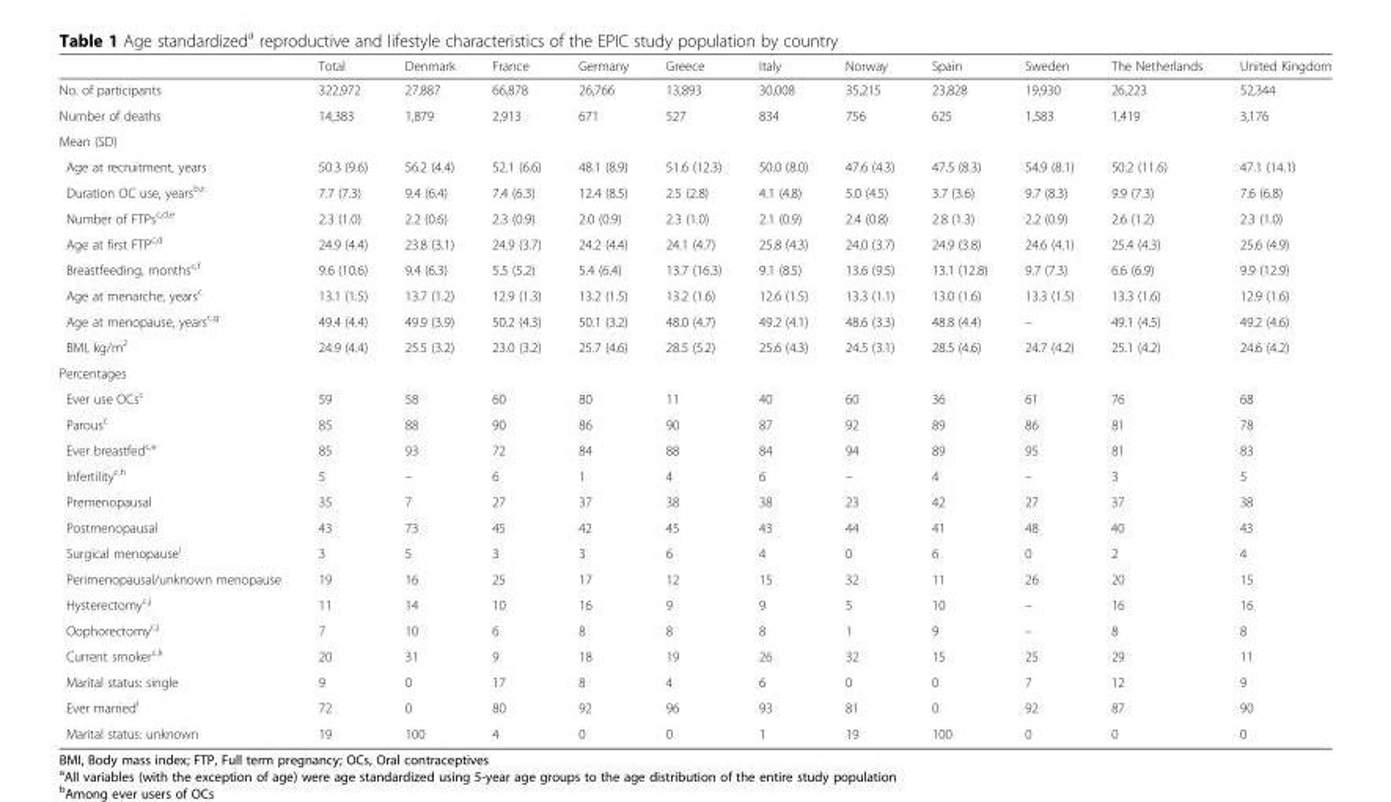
<table><thead><tr><td></td><td>Total</td><td>Denmark</td><td>France</td><td>Germany</td><td>Greece</td><td>Italy</td><td>Norway</td><td>Spain</td><td>Sweden</td><td>The Netherlands</td><td>United Kingdom</td></tr></thead><tbody><tr><td>No. of participants</td><td>322,972</td><td>27,887</td><td>66,878</td><td>26,766</td><td>13,893</td><td>30,008</td><td>35,215</td><td>23,828</td><td>19,930</td><td>26,223</td><td>52,344</td></tr><tr><td>Number of deaths</td><td>14,383</td><td>1,879</td><td>2,913</td><td>671</td><td>527</td><td>834</td><td>756</td><td>625</td><td>1,583</td><td>1,419</td><td>3,176</td></tr><tr><td colspan="12">Mean (SD)</td></tr><tr><td>Age at recruitment, years</td><td>50.3 (9.6)</td><td>56.2 (4.4)</td><td>52.1 (6.6)</td><td>48.1 (8.9)</td><td>51.6 (12.3)</td><td>50.0 (8.0)</td><td>47.6 (4.3)</td><td>47.5 (8.3)</td><td>54.9 (8.1)</td><td>50.2 (11.6)</td><td>47.1 (14.1)</td></tr><tr><td>Duration OC use, years<sup>b,c</sup></td><td>7.7 (7.3)</td><td>9.4 (6.4)</td><td>7.4 (6.3)</td><td>12.4 (8.5)</td><td>2.5 (2.8)</td><td>4.1 (4.8)</td><td>5.0 (4.5)</td><td>3.7 (3.6)</td><td>9.7 (8.3)</td><td>9.9 (7.3)</td><td>7.6 (6.8)</td></tr><tr><td>Number of FTPs<sup>c,d,e</sup></td><td>2.3 (1.0)</td><td>2.2 (0.6)</td><td>2.3 (0.9)</td><td>2.0 (0.9)</td><td>2.3 (1.0)</td><td>2.1 (0.9)</td><td>2.4 (0.8)</td><td>2.8 (1.3)</td><td>2.2 (0.9)</td><td>2.6 (1.2)</td><td>2.3 (1.0)</td></tr><tr><td>Age at first FTP<sup>c,d</sup></td><td>24.9 (4.4)</td><td>23.8 (3.1)</td><td>24.9 (3.7)</td><td>24.2 (4.4)</td><td>24.1 (4.7)</td><td>25.8 (4.3)</td><td>24.0 (3.7)</td><td>24.9 (3.8)</td><td>24.6 (4.1)</td><td>25.4 (4.3)</td><td>25.6 (4.9)</td></tr><tr><td>Breastfeeding, months<sup>c,f</sup></td><td>9.6 (10.6)</td><td>9.4 (6.3)</td><td>5.5 (5.2)</td><td>5.4 (6.4)</td><td>13.7 (16.3)</td><td>9.1 (8.5)</td><td>13.6 (9.5)</td><td>13.1 (12.8)</td><td>9.7 (7.3)</td><td>6.6 (6.9)</td><td>9.9 (12.9)</td></tr><tr><td>Age at menarche, years<sup>c</sup></td><td>13.1 (1.5)</td><td>13.7 (1.2)</td><td>12.9 (1.3)</td><td>13.2 (1.5)</td><td>13.2 (1.6)</td><td>12.6 (1.5)</td><td>13.3 (1.1)</td><td>13.0 (1.6)</td><td>13.3 (1.5)</td><td>13.3 (1.6)</td><td>12.9 (1.6)</td></tr><tr><td>Age at menopause, years<sup>c,g</sup></td><td>49.4 (4.4)</td><td>49.9 (3.9)</td><td>50.2 (4.3)</td><td>50.1 (3.2)</td><td>48.0 (4.7)</td><td>49.2 (4.1)</td><td>48.6 (3.3)</td><td>48.8 (4.4)</td><td>–</td><td>49.1 (4.5)</td><td>49.2 (4.6)</td></tr><tr><td>BMI, kg/m<sup>2</sup></td><td>24.9 (4.4)</td><td>25.5 (3.2)</td><td>23.0 (3.2)</td><td>25.7 (4.6)</td><td>28.5 (5.2)</td><td>25.6 (4.3)</td><td>24.5 (3.1)</td><td>28.5 (4.6)</td><td>24.7 (4.2)</td><td>25.1 (4.2)</td><td>24.6 (4.2)</td></tr><tr><td colspan="12">Percentages</td></tr><tr><td>Ever use OCs<sup>c</sup></td><td>59</td><td>58</td><td>60</td><td>80</td><td>11</td><td>40</td><td>60</td><td>36</td><td>61</td><td>76</td><td>68</td></tr><tr><td>Parous<sup>c</sup></td><td>85</td><td>88</td><td>90</td><td>86</td><td>90</td><td>87</td><td>92</td><td>89</td><td>86</td><td>81</td><td>78</td></tr><tr><td>Ever breastfed<sup>c,e</sup></td><td>85</td><td>93</td><td>72</td><td>84</td><td>88</td><td>84</td><td>94</td><td>89</td><td>95</td><td>81</td><td>83</td></tr><tr><td>Infertility<sup>c,h</sup></td><td>5</td><td>–</td><td>6</td><td>1</td><td>4</td><td>6</td><td>–</td><td>4</td><td>–</td><td>3</td><td>5</td></tr><tr><td>Premenopausal</td><td>35</td><td>7</td><td>27</td><td>37</td><td>38</td><td>38</td><td>23</td><td>42</td><td>27</td><td>37</td><td>38</td></tr><tr><td>Postmenopausal</td><td>43</td><td>73</td><td>45</td><td>42</td><td>45</td><td>43</td><td>44</td><td>41</td><td>48</td><td>40</td><td>43</td></tr><tr><td>Surgical menopause<sup>i</sup></td><td>3</td><td>5</td><td>3</td><td>3</td><td>6</td><td>4</td><td>0</td><td>6</td><td>0</td><td>2</td><td>4</td></tr><tr><td>Perimenopausal/unknown menopause</td><td>19</td><td>16</td><td>25</td><td>17</td><td>12</td><td>15</td><td>32</td><td>11</td><td>26</td><td>20</td><td>15</td></tr><tr><td>Hysterectomy<sup>c,j</sup></td><td>11</td><td>14</td><td>10</td><td>16</td><td>9</td><td>9</td><td>5</td><td>10</td><td>–</td><td>16</td><td>16</td></tr><tr><td>Oophorectomy<sup>c,j</sup></td><td>7</td><td>10</td><td>6</td><td>8</td><td>8</td><td>8</td><td>1</td><td>9</td><td>–</td><td>8</td><td>8</td></tr><tr><td>Current smoker<sup>c,k</sup></td><td>20</td><td>31</td><td>9</td><td>18</td><td>19</td><td>26</td><td>32</td><td>15</td><td>25</td><td>29</td><td>11</td></tr><tr><td>Marital status: single</td><td>9</td><td>0</td><td>17</td><td>8</td><td>4</td><td>6</td><td>0</td><td>0</td><td>7</td><td>12</td><td>9</td></tr><tr><td>Ever married<sup>l</sup></td><td>72</td><td>0</td><td>80</td><td>92</td><td>96</td><td>93</td><td>81</td><td>0</td><td>92</td><td>87</td><td>90</td></tr><tr><td>Marital status: unknown</td><td>19</td><td>100</td><td>4</td><td>0</td><td>0</td><td>1</td><td>19</td><td>100</td><td>0</td><td>0</td><td>0</td></tr></tbody></table>